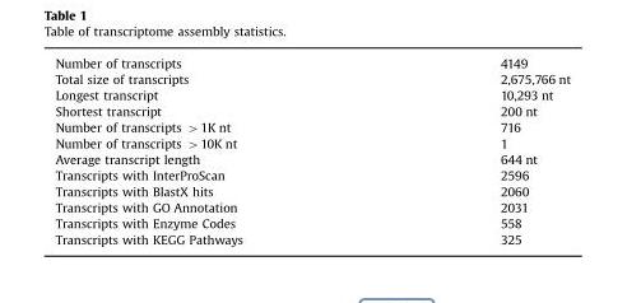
<table><tbody><tr><td>Number of transcripts</td><td>4149</td></tr><tr><td>Total size of transcripts</td><td>2,675,766 nt</td></tr><tr><td>Longest transcript</td><td>10,293 nt</td></tr><tr><td>Shortest transcript</td><td>200 nt</td></tr><tr><td>Number of transcripts &gt;1K nt</td><td>716</td></tr><tr><td>Number of transcripts &gt;10K nt</td><td>1</td></tr><tr><td>Average transcript length</td><td>644 nt</td></tr><tr><td>Transcripts with InterProScan</td><td>2596</td></tr><tr><td>Transcripts with BlastX hits</td><td>2060</td></tr><tr><td>Transcripts with GO Annotation</td><td>2031</td></tr><tr><td>Transcripts with Enzyme Codes</td><td>558</td></tr><tr><td>Transcripts with KEGG Pathways</td><td>325</td></tr></tbody></table>